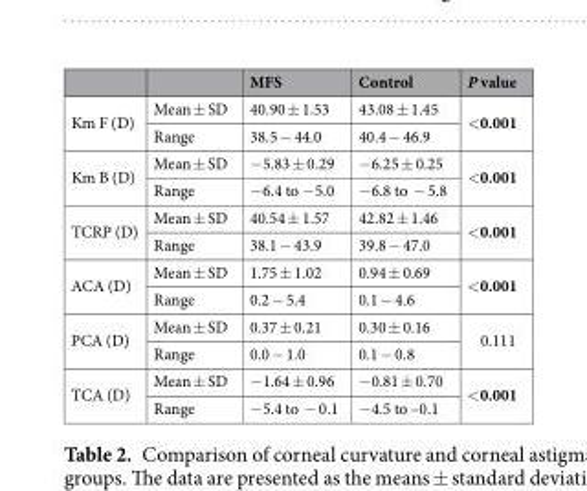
<table><thead><tr><td></td><td></td><td>MFS</td><td>Control</td><td>P value</td></tr></thead><tbody><tr><td rowspan="2">Km F (D)</td><td>Mean ± SD</td><td>40.90 ± 1.53</td><td>43.08 ± 1.45</td><td rowspan="2">&lt;0.001</td></tr><tr><td>Range</td><td>38.5 − 44.0</td><td>40.4 − 46.9</td></tr><tr><td rowspan="2">Km B (D)</td><td>Mean ± SD</td><td>−5.83 ± 0.29</td><td>−6.25 ± 0.25</td><td rowspan="2">&lt;0.001</td></tr><tr><td>Range</td><td>−6.4 to −5.0</td><td>−6.8 to − 5.8</td></tr><tr><td rowspan="2">TCRP (D)</td><td>Mean ± SD</td><td>40.54 ± 1.57</td><td>42.82 ± 1.46</td><td rowspan="2">&lt;0.001</td></tr><tr><td>Range</td><td>38.1 − 43.9</td><td>39.8 − 47.0</td></tr><tr><td rowspan="2">ACA (D)</td><td>Mean ± SD</td><td>1.75 ± 1.02</td><td>0.94 ± 0.69</td><td rowspan="2">&lt;0.001</td></tr><tr><td>Range</td><td>0.2 − 5.4</td><td>0.1 − 4.6</td></tr><tr><td rowspan="2">PCA (D)</td><td>Mean ± SD</td><td>0.37 ± 0.21</td><td>0.30 ± 0.16</td><td rowspan="2">0.111</td></tr><tr><td>Range</td><td>0.0 − 1.0</td><td>0.1 − 0.8</td></tr><tr><td rowspan="2">TCA (D)</td><td>Mean ± SD</td><td>−1.64 ± 0.96</td><td>−0.81 ± 0.70</td><td rowspan="2">&lt;0.001</td></tr><tr><td>Range</td><td>−5.4 to − 0.1</td><td>−4.5 to –0.1</td></tr></tbody></table>